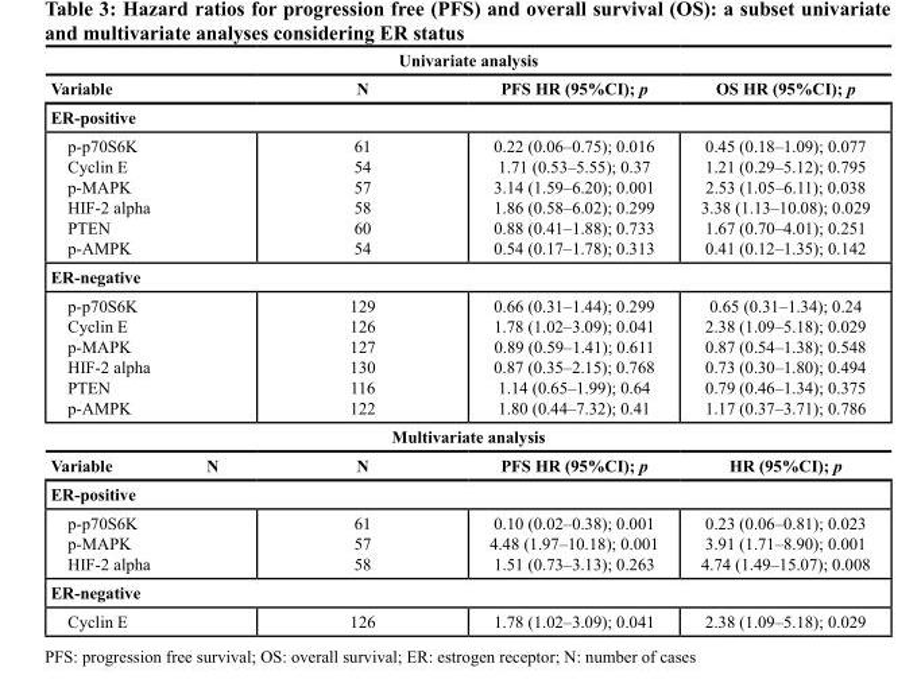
<table><thead><tr><td colspan="4">Univariate analysis</td></tr><tr><td>Variable</td><td>N</td><td>PFS HR (95%CI); p</td><td>OS HR (95%CI); p</td></tr></thead><tbody><tr><td colspan="4">ER-positive</td></tr><tr><td>p-p70S6K Cyclin E p-MAPK HIF-2 alpha PTEN p-AMPK</td><td>61 54 57 58 60 54</td><td>0.22 (0.06–0.75); 0.016 1.71 (0.53–5.55); 0.37 3.14 (1.59–6.20); 0.001 1.86 (0.58–6.02); 0.299 0.88 (0.41–1.88); 0.733 0.54 (0.17–1.78); 0.313</td><td>0.45 (0.18–1.09); 0.077 1.21 (0.29–5.12); 0.795 2.53 (1.05–6.11); 0.038 3.38 (1.13–10.08); 0.029 1.67 (0.70–4.01); 0.251 0.41 (0.12–1.35); 0.142</td></tr><tr><td colspan="4">ER-negative</td></tr><tr><td>p-p70S6K Cyclin E p-MAPK HIF-2 alpha PTEN p-AMPK</td><td>129 126 127 130 116 122</td><td>0.66 (0.31–1.44); 0.299 1.78 (1.02–3.09); 0.041 0.89 (0.59–1.41); 0.611 0.87 (0.35–2.15); 0.768 1.14 (0.65–1.99); 0.64 1.80 (0.44–7.32); 0.41</td><td>0.65 (0.31–1.34); 0.24 2.38 (1.09–5.18); 0.029 0.87 (0.54–1.38); 0.548 0.73 (0.30–1.80); 0.494 0.79 (0.46–1.34); 0.375 1.17 (0.37–3.71); 0.786</td></tr><tr><td colspan="4">Multivariate analysis</td></tr><tr><td>Variable N</td><td>N</td><td>PFS HR (95%CI); p</td><td>HR (95%CI); p</td></tr><tr><td colspan="4">ER-positive</td></tr><tr><td>p-p70S6K p-MAPK HIF-2 alpha</td><td>61 57 58</td><td>0.10 (0.02–0.38); 0.001 4.48 (1.97–10.18); 0.001 1.51 (0.73–3.13); 0.263</td><td>0.23 (0.06–0.81); 0.023 3.91 (1.71–8.90); 0.001 4.74 (1.49–15.07); 0.008</td></tr><tr><td colspan="4">ER-negative</td></tr><tr><td>Cyclin E</td><td>126</td><td>1.78 (1.02–3.09); 0.041</td><td>2.38 (1.09–5.18); 0.029</td></tr></tbody></table>